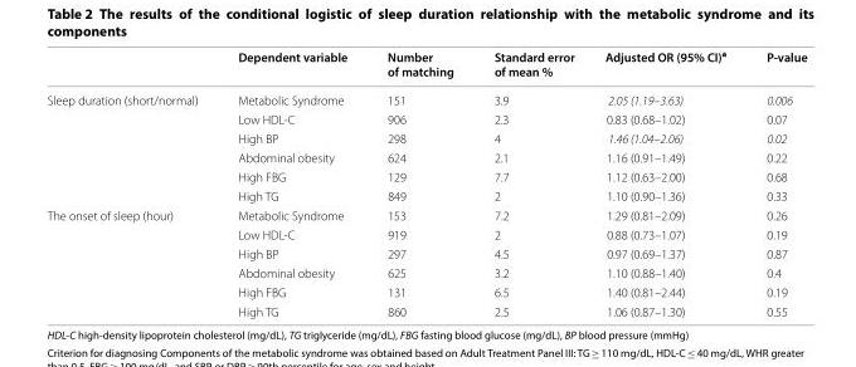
<table><thead><tr><td></td><td>Dependent variable</td><td>Number of matching</td><td>Standard error of mean %</td><td>Adjusted OR (95% CI)<sup>a</sup></td><td>P-value</td></tr></thead><tbody><tr><td rowspan="6">Sleep duration (short/normal)</td><td>Metabolic Syndrome</td><td>151</td><td>3.9</td><td>2.05 (1.19–3.63)</td><td>0.006</td></tr><tr><td>Low HDL-C</td><td>906</td><td>2.3</td><td>0.83 (0.68–1.02)</td><td>0.07</td></tr><tr><td>High BP</td><td>298</td><td>4</td><td>1.46 (1.04–2.06)</td><td>0.02</td></tr><tr><td>Abdominal obesity</td><td>624</td><td>2.1</td><td>1.16 (0.91–1.49)</td><td>0.22</td></tr><tr><td>High FBG</td><td>129</td><td>7.7</td><td>1.12 (0.63–2.00)</td><td>0.68</td></tr><tr><td>High TG</td><td>849</td><td>2</td><td>1.10 (0.90–1.36)</td><td>0.33</td></tr><tr><td rowspan="6">The onset of sleep (hour)</td><td>Metabolic Syndrome</td><td>153</td><td>7.2</td><td>1.29 (0.81–2.09)</td><td>0.26</td></tr><tr><td>Low HDL-C</td><td>919</td><td>2</td><td>0.88 (0.73–1.07)</td><td>0.19</td></tr><tr><td>High BP</td><td>297</td><td>4.5</td><td>0.97 (0.69–1.37)</td><td>0.87</td></tr><tr><td>Abdominal obesity</td><td>625</td><td>3.2</td><td>1.10 (0.88–1.40)</td><td>0.4</td></tr><tr><td>High FBG</td><td>131</td><td>6.5</td><td>1.40 (0.81–2.44)</td><td>0.19</td></tr><tr><td>High TG</td><td>860</td><td>2.5</td><td>1.06 (0.87–1.30)</td><td>0.55</td></tr></tbody></table>